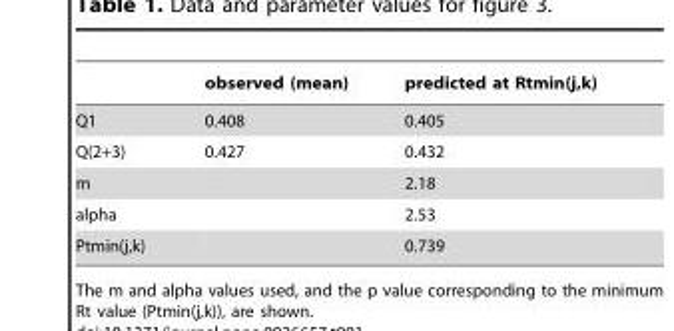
<table><thead><tr><td></td><td>observed (mean)</td><td>predicted at Rtmin(j,k)</td></tr></thead><tbody><tr><td>Q1</td><td>0.408</td><td>0.405</td></tr><tr><td>Q(2+3)</td><td>0.427</td><td>0.432</td></tr><tr><td>m</td><td></td><td>2.18</td></tr><tr><td>alpha</td><td></td><td>2.53</td></tr><tr><td>Ptmin(j,k)</td><td></td><td>0.739</td></tr></tbody></table>